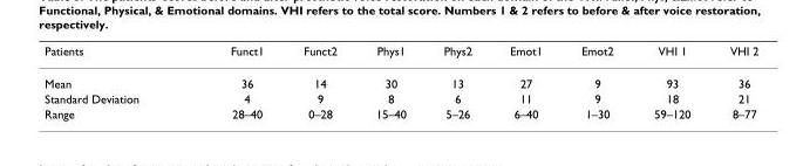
<table><thead><tr><td>Patients</td><td>Funct1</td><td>Funct2</td><td>Phys1</td><td>Phys2</td><td>Emot1</td><td>Emot2</td><td>VHI 1</td><td>VHI 2</td></tr></thead><tbody><tr><td>Mean</td><td>36</td><td>14</td><td>30</td><td>13</td><td>27</td><td>9</td><td>93</td><td>36</td></tr><tr><td>Standard Deviation</td><td>4</td><td>9</td><td>8</td><td>6</td><td>11</td><td>9</td><td>18</td><td>21</td></tr><tr><td>Range</td><td>28–40</td><td>0–28</td><td>15–40</td><td>5–26</td><td>6–40</td><td>1–30</td><td>59–120</td><td>8–77</td></tr></tbody></table>